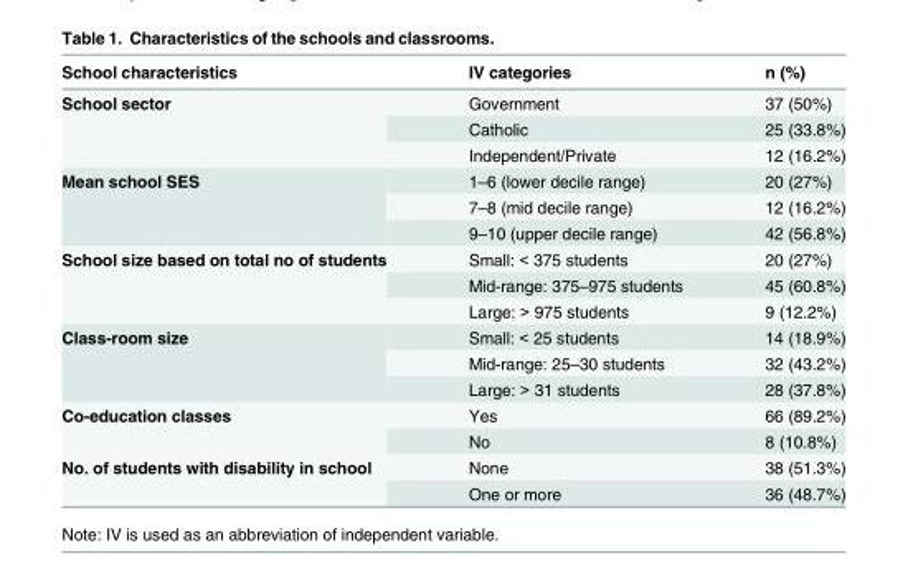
<table><thead><tr><td>School characteristics</td><td>IV categories</td><td>n (%)</td></tr></thead><tbody><tr><td rowspan="3">School sector</td><td>Government</td><td>37 (50%)</td></tr><tr><td>Catholic</td><td>25 (33.8%)</td></tr><tr><td>Independent/Private</td><td>12 (16.2%)</td></tr><tr><td rowspan="3">Mean school SES</td><td>1–6 (lower decile range)</td><td>20 (27%)</td></tr><tr><td>7–8 (mid decile range)</td><td>12 (16.2%)</td></tr><tr><td>9–10 (upper decile range)</td><td>42 (56.8%)</td></tr><tr><td rowspan="3">School size based on total no of students</td><td>Small: &lt; 375 students</td><td>20 (27%)</td></tr><tr><td>Mid-range: 375–975 students</td><td>45 (60.8%)</td></tr><tr><td>Large: &gt; 975 students</td><td>9 (12.2%)</td></tr><tr><td rowspan="3">Class-room size</td><td>Small: &lt; 25 students</td><td>14 (18.9%)</td></tr><tr><td>Mid-range: 25–30 students</td><td>32 (43.2%)</td></tr><tr><td>Large: &gt; 31 students</td><td>28 (37.8%)</td></tr><tr><td rowspan="2">Co-education classes</td><td>Yes</td><td>66 (89.2%)</td></tr><tr><td>No</td><td>8 (10.8%)</td></tr><tr><td rowspan="2">No. of students with disability in school</td><td>None</td><td>38 (51.3%)</td></tr><tr><td>One or more</td><td>36 (48.7%)</td></tr></tbody></table>